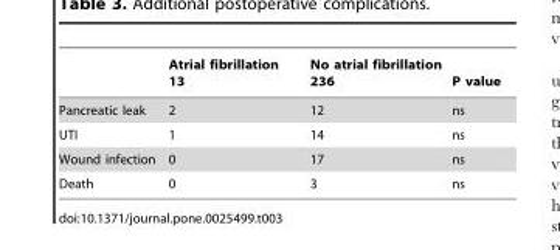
<table><thead><tr><td></td><td>Atrial fibrillation 13</td><td>No atrial fibrillation 236</td><td>P value</td></tr></thead><tbody><tr><td>Pancreatic leak</td><td>2</td><td>12</td><td>ns</td></tr><tr><td>UTI</td><td>1</td><td>14</td><td>ns</td></tr><tr><td>Wound infection</td><td>0</td><td>17</td><td>ns</td></tr><tr><td>Death</td><td>0</td><td>3</td><td>ns</td></tr></tbody></table>